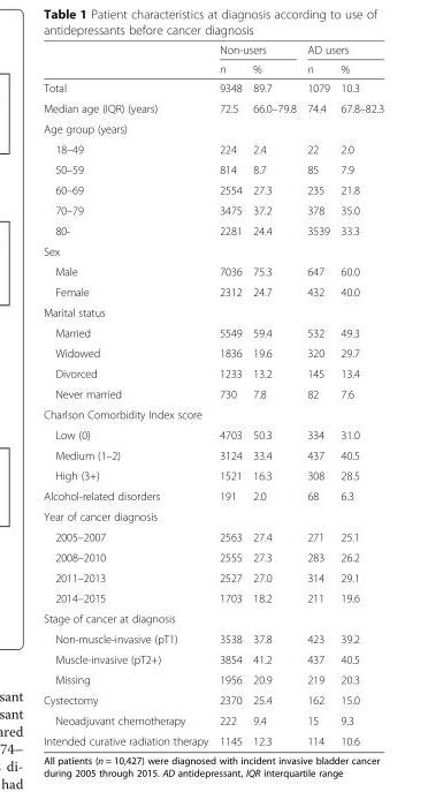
<table><thead><tr><td rowspan="2"></td><td colspan="2">Non-users</td><td colspan="2">AD users</td></tr><tr><td>n</td><td>%</td><td>n</td><td>%</td></tr></thead><tbody><tr><td>Total</td><td>9348</td><td>89.7</td><td>1079</td><td>10.3</td></tr><tr><td>Median age (IQR) (years)</td><td>72.5</td><td>66.0–79.8</td><td>74.4</td><td>67.8–82.3</td></tr><tr><td colspan="5">Age group (years)</td></tr><tr><td>18–49</td><td>224</td><td>2.4</td><td>22</td><td>2.0</td></tr><tr><td>50–59</td><td>814</td><td>8.7</td><td>85</td><td>7.9</td></tr><tr><td>60–69</td><td>2554</td><td>27.3</td><td>235</td><td>21.8</td></tr><tr><td>70–79</td><td>3475</td><td>37.2</td><td>378</td><td>35.0</td></tr><tr><td>80-</td><td>2281</td><td>24.4</td><td>3539</td><td>33.3</td></tr><tr><td colspan="5">Sex</td></tr><tr><td>Male</td><td>7036</td><td>75.3</td><td>647</td><td>60.0</td></tr><tr><td>Female</td><td>2312</td><td>24.7</td><td>432</td><td>40.0</td></tr><tr><td colspan="5">Marital status</td></tr><tr><td>Married</td><td>5549</td><td>59.4</td><td>532</td><td>49.3</td></tr><tr><td>Widowed</td><td>1836</td><td>19.6</td><td>320</td><td>29.7</td></tr><tr><td>Divorced</td><td>1233</td><td>13.2</td><td>145</td><td>13.4</td></tr><tr><td>Never married</td><td>730</td><td>7.8</td><td>82</td><td>7.6</td></tr><tr><td colspan="5">Charlson Comorbidity Index score</td></tr><tr><td>Low (0)</td><td>4703</td><td>50.3</td><td>334</td><td>31.0</td></tr><tr><td>Medium (1–2)</td><td>3124</td><td>33.4</td><td>437</td><td>40.5</td></tr><tr><td>High (3+)</td><td>1521</td><td>16.3</td><td>308</td><td>28.5</td></tr><tr><td>Alcohol-related disorders</td><td>191</td><td>2.0</td><td>68</td><td>6.3</td></tr><tr><td colspan="5">Year of cancer diagnosis</td></tr><tr><td>2005–2007</td><td>2563</td><td>27.4</td><td>271</td><td>25.1</td></tr><tr><td>2008–2010</td><td>2555</td><td>27.3</td><td>283</td><td>26.2</td></tr><tr><td>2011–2013</td><td>2527</td><td>27.0</td><td>314</td><td>29.1</td></tr><tr><td>2014–2015</td><td>1703</td><td>18.2</td><td>211</td><td>19.6</td></tr><tr><td colspan="5">Stage of cancer at diagnosis</td></tr><tr><td>Non-muscle-invasive (pT1)</td><td>3538</td><td>37.8</td><td>423</td><td>39.2</td></tr><tr><td>Muscle-invasive (pT2+)</td><td>3854</td><td>41.2</td><td>437</td><td>40.5</td></tr><tr><td>Missing</td><td>1956</td><td>20.9</td><td>219</td><td>20.3</td></tr><tr><td>Cystectomy</td><td>2370</td><td>25.4</td><td>162</td><td>15.0</td></tr><tr><td>Neoadjuvant chemotherapy</td><td>222</td><td>9.4</td><td>15</td><td>9.3</td></tr><tr><td>Intended curative radiation therapy</td><td>1145</td><td>12.3</td><td>114</td><td>10.6</td></tr></tbody></table>